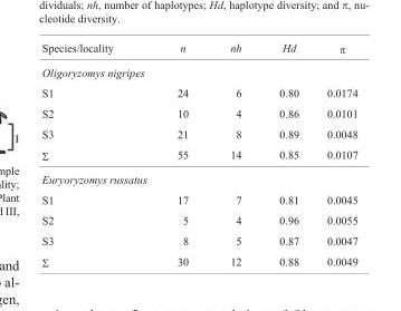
<table><thead><tr><td>Species/locality</td><td>n</td><td>nh</td><td>Hd</td><td>π</td></tr></thead><tbody><tr><td colspan="5">Oligoryzomys nigripes</td></tr><tr><td>S1</td><td>24</td><td>6</td><td>0.80</td><td>0.0174</td></tr><tr><td>S2</td><td>10</td><td>4</td><td>0.86</td><td>0.0101</td></tr><tr><td>S3</td><td>21</td><td>8</td><td>0.89</td><td>0.0048</td></tr><tr><td>Σ</td><td>55</td><td>14</td><td>0.85</td><td>0.0107</td></tr><tr><td colspan="5">Euryoryzomys russatus</td></tr><tr><td>S1</td><td>17</td><td>7</td><td>0.81</td><td>0.0045</td></tr><tr><td>S2</td><td>5</td><td>4</td><td>0.96</td><td>0.0055</td></tr><tr><td>S3</td><td>8</td><td>5</td><td>0.87</td><td>0.0047</td></tr><tr><td>Σ</td><td>30</td><td>12</td><td>0.88</td><td>0.0049</td></tr></tbody></table>